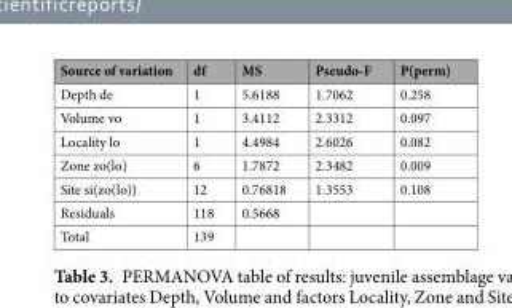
<table><thead><tr><td>Source of variation</td><td>df</td><td>MS</td><td>Pseudo-F</td><td>P(perm)</td></tr></thead><tbody><tr><td>Depth de</td><td>1</td><td>5.6188</td><td>1.7062</td><td>0.258</td></tr><tr><td>Volume vo</td><td>1</td><td>3.4112</td><td>2.3312</td><td>0.097</td></tr><tr><td>Locality lo</td><td>1</td><td>4.4984</td><td>2.6026</td><td>0.082</td></tr><tr><td>Zone zo(lo)</td><td>6</td><td>1.7872</td><td>2.3482</td><td>0.009</td></tr><tr><td>Site si(zo(lo))</td><td>12</td><td>0.76818</td><td>1.3553</td><td>0.108</td></tr><tr><td>Residuals</td><td>118</td><td>0.5668</td><td></td><td></td></tr><tr><td>Total</td><td>139</td><td></td><td></td><td></td></tr></tbody></table>